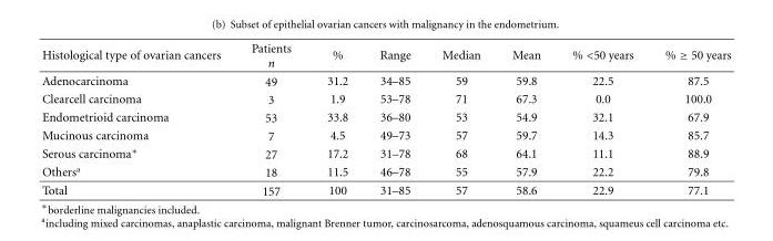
<table><thead><tr><td>Histological type of ovarian cancers</td><td>Patients n</td><td>%</td><td>Range</td><td>Median</td><td>Mean</td><td>% &lt;50 years</td><td>% ≥ 50 years</td></tr></thead><tbody><tr><td>Adenocarcinoma</td><td>49</td><td>31.2</td><td>34–85</td><td>59</td><td>59.8</td><td>22.5</td><td>87.5</td></tr><tr><td>Clearcell carcinoma</td><td>3</td><td>1.9</td><td>53–78</td><td>71</td><td>67.3</td><td>0.0</td><td>100.0</td></tr><tr><td>Endometrioid carcinoma</td><td>53</td><td>33.8</td><td>36–80</td><td>53</td><td>54.9</td><td>32.1</td><td>67.9</td></tr><tr><td>Mucinous carcinoma</td><td>7</td><td>4.5</td><td>49–73</td><td>57</td><td>59.7</td><td>14.3</td><td>85.7</td></tr><tr><td>Serous carcinoma∗</td><td>27</td><td>17.2</td><td>31–78</td><td>68</td><td>64.1</td><td>11.1</td><td>88.9</td></tr><tr><td>Others<sup>a</sup></td><td>18</td><td>11.5</td><td>46–78</td><td>55</td><td>57.9</td><td>22.2</td><td>79.8</td></tr><tr><td>Total</td><td>157</td><td>100</td><td>31–85</td><td>57</td><td>58.6</td><td>22.9</td><td>77.1</td></tr></tbody></table>